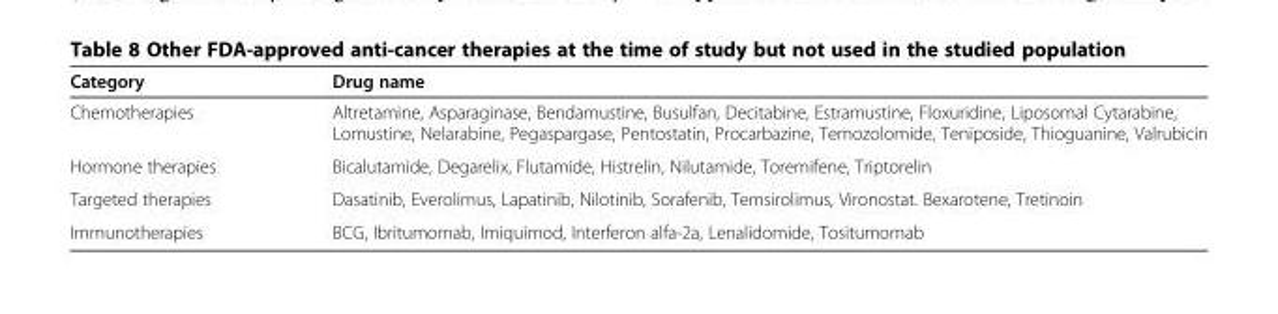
<table><thead><tr><td>Category</td><td>Drug name</td></tr></thead><tbody><tr><td>Chemotherapies</td><td>Altretamine, Asparaginase, Bendamustine, Busulfan, Decitabine, Estramustine, Floxuridine, Liposomal Cytarabine, Lomustine, Nelarabine, Pegaspargase, Pentostatin, Procarbazine, Temozolomide, Teniposide, Thioguanine, Valrubicin</td></tr><tr><td>Hormone therapies</td><td>Bicalutamide, Degarelix, Flutamide, Histrelin, Nilutamide, Toremifene, Triptorelin</td></tr><tr><td>Targeted therapies</td><td>Dasatinib, Everolimus, Lapatinib, Nilotinib, Sorafenib, Temsirolimus, Vironostat. Bexarotene, Tretinoin</td></tr><tr><td>Immunotherapies</td><td>BCG, Ibritumomab, Imiquimod, Interferon alfa-2a, Lenalidomide, Tositumomab</td></tr></tbody></table>